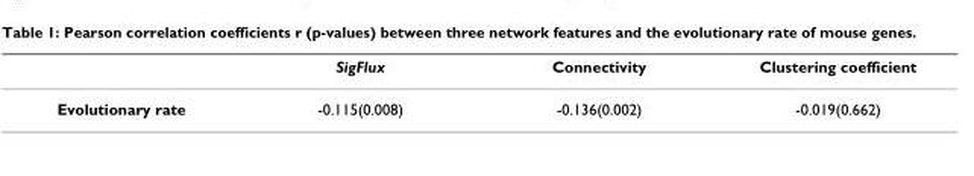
<table><thead><tr><td></td><td>SigFlux</td><td>Connectivity</td><td>Clustering coefficient</td></tr></thead><tbody><tr><td>Evolutionary rate</td><td>-0.115(0.008)</td><td>-0.136(0.002)</td><td>-0.019(0.662)</td></tr></tbody></table>